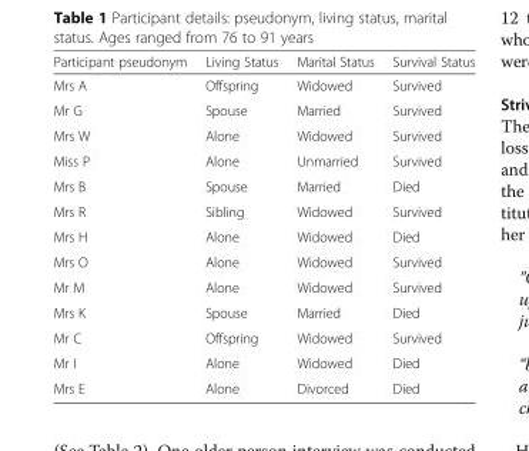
<table><thead><tr><td>Participant pseudonym</td><td>Living Status</td><td>Marital Status</td><td>Survival Status</td></tr></thead><tbody><tr><td>Mrs A</td><td>Offspring</td><td>Widowed</td><td>Survived</td></tr><tr><td>Mr G</td><td>Spouse</td><td>Married</td><td>Survived</td></tr><tr><td>Mrs W</td><td>Alone</td><td>Widowed</td><td>Survived</td></tr><tr><td>Miss P</td><td>Alone</td><td>Unmarried</td><td>Survived</td></tr><tr><td>Mrs B</td><td>Spouse</td><td>Married</td><td>Died</td></tr><tr><td>Mrs R</td><td>Sibling</td><td>Widowed</td><td>Survived</td></tr><tr><td>Mrs H</td><td>Alone</td><td>Widowed</td><td>Died</td></tr><tr><td>Mrs O</td><td>Alone</td><td>Widowed</td><td>Survived</td></tr><tr><td>Mr M</td><td>Alone</td><td>Widowed</td><td>Survived</td></tr><tr><td>Mrs K</td><td>Spouse</td><td>Married</td><td>Died</td></tr><tr><td>Mr C</td><td>Offspring</td><td>Widowed</td><td>Survived</td></tr><tr><td>Mr I</td><td>Alone</td><td>Widowed</td><td>Died</td></tr><tr><td>Mrs E</td><td>Alone</td><td>Divorced</td><td>Died</td></tr></tbody></table>